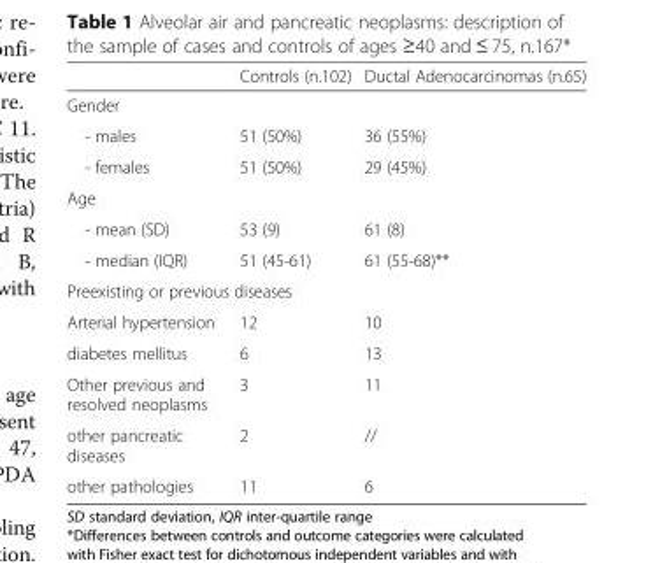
<table><thead><tr><td></td><td>Controls (n.102)</td><td>Ductal Adenocarcinomas (n.65)</td></tr></thead><tbody><tr><td colspan="3">Gender</td></tr><tr><td>- males</td><td>51 (50%)</td><td>36 (55%)</td></tr><tr><td>- females</td><td>51 (50%)</td><td>29 (45%)</td></tr><tr><td colspan="3">Age</td></tr><tr><td>- mean (SD)</td><td>53 (9)</td><td>61 (8)</td></tr><tr><td>- median (IQR)</td><td>51 (45-61)</td><td>61 (55-68)**</td></tr><tr><td colspan="3">Preexisting or previous diseases</td></tr><tr><td>Arterial hypertension</td><td>12</td><td>10</td></tr><tr><td>diabetes mellitus</td><td>6</td><td>13</td></tr><tr><td>Other previous and resolved neoplasms</td><td>3</td><td>11</td></tr><tr><td>other pancreatic diseases</td><td>2</td><td>//</td></tr><tr><td>other pathologies</td><td>11</td><td>6</td></tr></tbody></table>